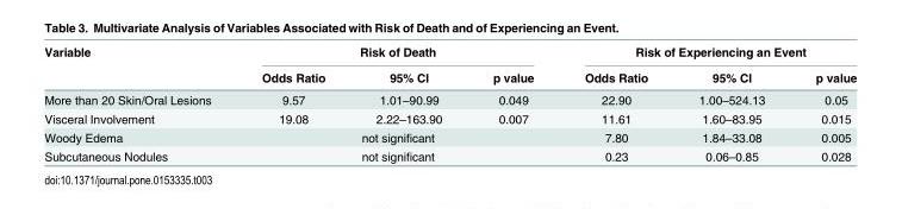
<table><thead><tr><td rowspan="2">Variable</td><td colspan="3">Risk of Death</td><td colspan="3">Risk of Experiencing an Event</td></tr><tr><td>Odds Ratio</td><td>95% CI</td><td>p value</td><td>Odds Ratio</td><td>95% CI</td><td>p value</td></tr></thead><tbody><tr><td>More than 20 Skin/Oral Lesions</td><td>9.57</td><td>1.01–90.99</td><td>0.049</td><td>22.90</td><td>1.00–524.13</td><td>0.05</td></tr><tr><td>Visceral Involvement</td><td>19.08</td><td>2.22–163.90</td><td>0.007</td><td>11.61</td><td>1.60–83.95</td><td>0.015</td></tr><tr><td>Woody Edema</td><td colspan="3">not significant</td><td>7.80</td><td>1.84–33.08</td><td>0.005</td></tr><tr><td>Subcutaneous Nodules</td><td colspan="3">not significant</td><td>0.23</td><td>0.06–0.85</td><td>0.028</td></tr></tbody></table>